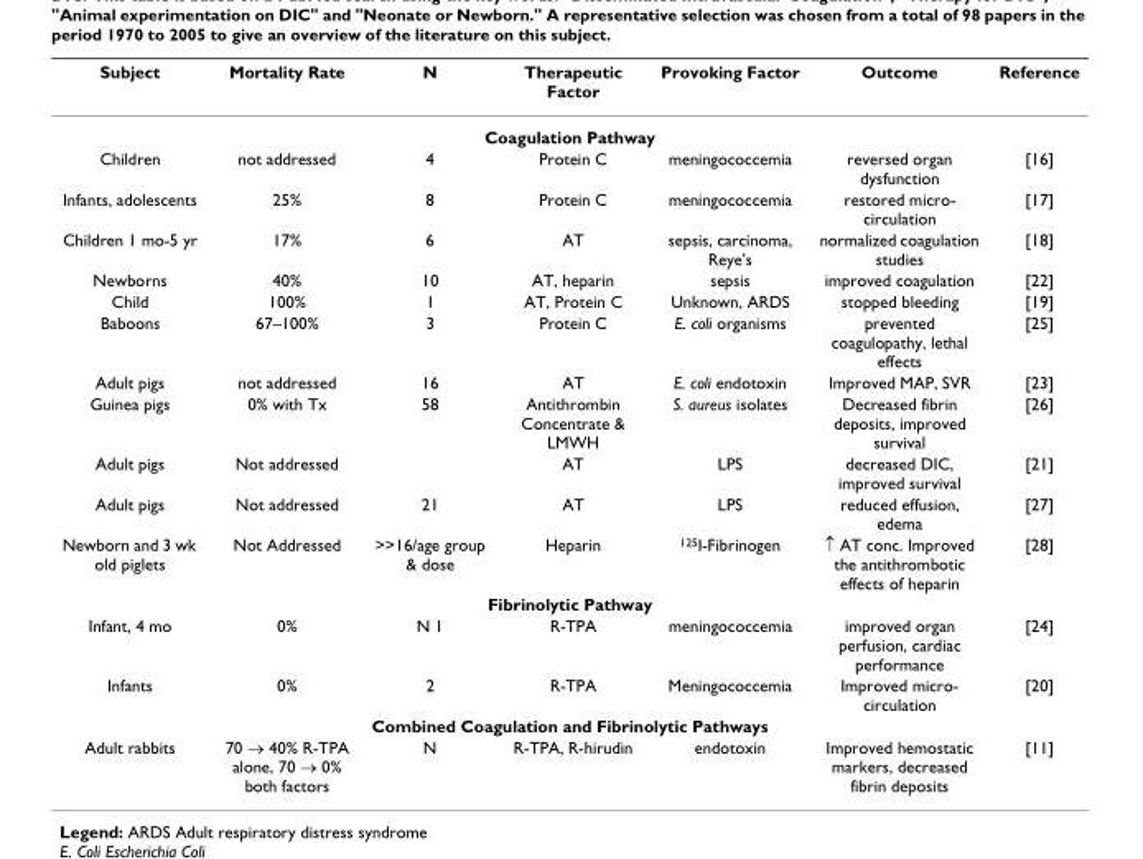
<table><thead><tr><td>Subject</td><td>Mortality Rate</td><td>N</td><td>Therapeutic Factor</td><td>Provoking Factor</td><td>Outcome</td><td>Reference</td></tr></thead><tbody><tr><td colspan="7">Coagulation Pathway</td></tr><tr><td>Children</td><td>not addressed</td><td>4</td><td>Protein C</td><td>meningococcemia</td><td>reversed organ dysfunction</td><td>[16]</td></tr><tr><td>Infants, adolescents</td><td>25%</td><td>8</td><td>Protein C</td><td>meningococcemia</td><td>restored micro- circulation</td><td>[17]</td></tr><tr><td>Children 1 mo-5 yr</td><td>17%</td><td>6</td><td>AT</td><td>sepsis, carcinoma, Reye&#x27;s</td><td>normalized coagulation studies</td><td>[18]</td></tr><tr><td>Newborns</td><td>40%</td><td>10</td><td>AT, heparin</td><td>sepsis</td><td>improved coagulation</td><td>[22]</td></tr><tr><td>Child</td><td>100%</td><td>1</td><td>AT, Protein C</td><td>Unknown, ARDS</td><td>stopped bleeding</td><td>[19]</td></tr><tr><td>Baboons</td><td>67–100%</td><td>3</td><td>Protein C</td><td>E. coli organisms</td><td>prevented coagulopathy, lethal effects</td><td>[25]</td></tr><tr><td>Adult pigs</td><td>not addressed</td><td>16</td><td>AT</td><td>E. coli endotoxin</td><td>Improved MAP, SVR</td><td>[23]</td></tr><tr><td>Guinea pigs</td><td>0% with Tx</td><td>58</td><td>Antithrombin Concentrate &amp; LMWH</td><td>S. aureus isolates</td><td>Decreased fibrin deposits, improved survival</td><td>[26]</td></tr><tr><td>Adult pigs</td><td>Not addressed</td><td></td><td>AT</td><td>LPS</td><td>decreased DIC, improved survival</td><td>[21]</td></tr><tr><td>Adult pigs</td><td>Not addressed</td><td>21</td><td>AT</td><td>LPS</td><td>reduced effusion, edema</td><td>[27]</td></tr><tr><td>Newborn and 3 wk old piglets</td><td>Not Addressed</td><td>&gt;&gt;16/age group &amp; dose</td><td>Heparin</td><td><sup>125</sup>I-Fibrinogen</td><td>↑ AT conc. Improved the antithrombotic effects of heparin</td><td>[28]</td></tr><tr><td colspan="7">Fibrinolytic Pathway</td></tr><tr><td>Infant, 4 mo</td><td>0%</td><td>N 1</td><td>R-TPA</td><td>meningococcemia</td><td>improved organ perfusion, cardiac performance</td><td>[24]</td></tr><tr><td>Infants</td><td>0%</td><td>2</td><td>R-TPA</td><td>Meningococcemia</td><td>Improved micro- circulation</td><td>[20]</td></tr><tr><td colspan="7">Combined Coagulation and Fibrinolytic Pathways</td></tr><tr><td>Adult rabbits</td><td>70 → 40% R-TPA alone, 70 → 0% both factors</td><td>N</td><td>R-TPA, R-hirudin</td><td>endotoxin</td><td>Improved hemostatic markers, decreased fibrin deposits</td><td>[11]</td></tr></tbody></table>